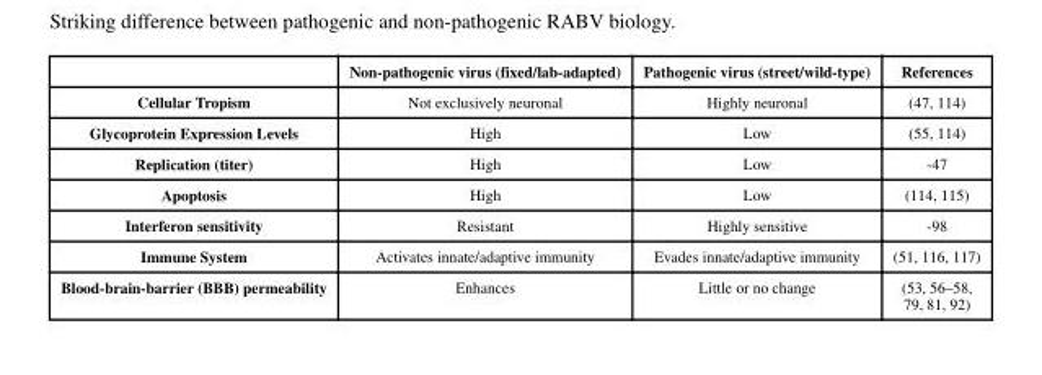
<table><thead><tr><td></td><td>Non-pathogenic virus (fixed/lab-adapted)</td><td>Pathogenic virus (street/wild-type)</td><td>References</td></tr></thead><tbody><tr><td>Cellular Tropism</td><td>Not exclusively neuronal</td><td>Highly neuronal</td><td>(47, 114)</td></tr><tr><td>Glycoprotein Expression Levels</td><td>High</td><td>Low</td><td>(55, 114)</td></tr><tr><td>Replication (titer)</td><td>High</td><td>Low</td><td>-47</td></tr><tr><td>Apoptosis</td><td>High</td><td>Low</td><td>(114, 115)</td></tr><tr><td>Interferon sensitivity</td><td>Resistant</td><td>Highly sensitive</td><td>-98</td></tr><tr><td>Immune System</td><td>Activates innate/adaptive immunity</td><td>Evades innate/adaptive immunity</td><td>(51, 116, 117)</td></tr><tr><td>Blood-brain-barrier (BBB) permeability</td><td>Enhances</td><td>Little or no change</td><td>(53, 56–58, 79, 81, 92)</td></tr></tbody></table>